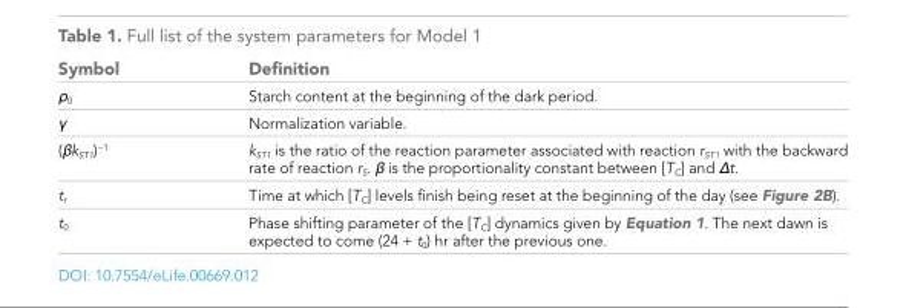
<table><thead><tr><td>Symbol</td><td>Definition</td></tr></thead><tbody><tr><td>ρ<sub>0</sub></td><td>Starch content at the beginning of the dark period.</td></tr><tr><td>γ</td><td>Normalization variable.</td></tr><tr><td>(βk<sub>ST1</sub>)<sup>−1</sup></td><td>k<sub>ST1</sub> is the ratio of the reaction parameter associated with reaction r<sub>ST1</sub> with the backward rate of reaction r<sub>S</sub>. β is the proportionality constant between [T<sub>C</sub>] and Δt.</td></tr><tr><td>t<sub>r</sub></td><td>Time at which [T<sub>C</sub>] levels finish being reset at the beginning of the day (see Figure 2B).</td></tr><tr><td>t<sub>0</sub></td><td>Phase shifting parameter of the [T<sub>C</sub>] dynamics given by Equation 1. The next dawn is expected to come (24 + t<sub>0</sub>) hr after the previous one.</td></tr></tbody></table>